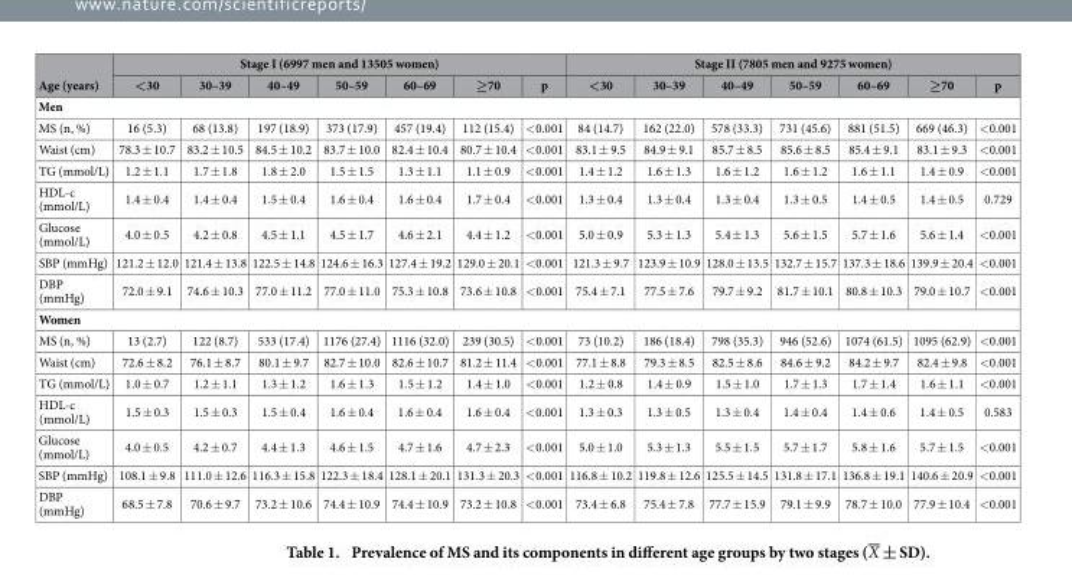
<table><thead><tr><td rowspan="2">Age (years)</td><td colspan="7">Stage I (6997 men and 13505 women)</td><td colspan="7">Stage II (7805 men and 9275 women)</td></tr><tr><td>&lt;30</td><td>30–39</td><td>40–49</td><td>50–59</td><td>60–69</td><td>≥70</td><td>p</td><td>&lt;30</td><td>30–39</td><td>40–49</td><td>50–59</td><td>60–69</td><td>≥70</td><td>p</td></tr></thead><tbody><tr><td colspan="15">Men</td></tr><tr><td>MS (n, %)</td><td>16 (5.3)</td><td>68 (13.8)</td><td>197 (18.9)</td><td>373 (17.9)</td><td>457 (19.4)</td><td>112 (15.4)</td><td>&lt; 0.001</td><td>84 (14.7)</td><td>162 (22.0)</td><td>578 (33.3)</td><td>731 (45.6)</td><td>881 (51.5)</td><td>669 (46.3)</td><td>&lt; 0.001</td></tr><tr><td>Waist (cm)</td><td>78.3 ± 10.7</td><td>83.2 ± 10.5</td><td>84.5 ± 10.2</td><td>83.7 ± 10.0</td><td>82.4 ± 10.4</td><td>80.7 ± 10.4</td><td>&lt; 0.001</td><td>83.1 ± 9.5</td><td>84.9 ± 9.1</td><td>85.7 ± 8.5</td><td>85.6 ± 8.5</td><td>85.4 ± 9.1</td><td>83.1 ± 9.3</td><td>&lt; 0.001</td></tr><tr><td>TG (mmol/L)</td><td>1.2 ± 1.1</td><td>1.7 ± 1.8</td><td>1.8 ± 2.0</td><td>1.5 ± 1.5</td><td>1.3 ± 1.1</td><td>1.1 ± 0.9</td><td>&lt; 0.001</td><td>1.4 ± 1.2</td><td>1.6 ± 1.3</td><td>1.6 ± 1.2</td><td>1.6 ± 1.2</td><td>1.6 ± 1.1</td><td>1.4 ± 0.9</td><td>&lt; 0.001</td></tr><tr><td>HDL-c (mmol/L)</td><td>1.4 ± 0.4</td><td>1.4 ± 0.4</td><td>1.5 ± 0.4</td><td>1.6 ± 0.4</td><td>1.6 ± 0.4</td><td>1.7 ± 0.4</td><td>&lt; 0.001</td><td>1.3 ± 0.4</td><td>1.3 ± 0.4</td><td>1.3 ± 0.4</td><td>1.3 ± 0.5</td><td>1.4 ± 0.5</td><td>1.4 ± 0.5</td><td>0.729</td></tr><tr><td>Glucose (mmol/L)</td><td>4.0 ± 0.5</td><td>4.2 ± 0.8</td><td>4.5 ± 1.1</td><td>4.5 ± 1.7</td><td>4.6 ± 2.1</td><td>4.4 ± 1.2</td><td>&lt; 0.001</td><td>5.0 ± 0.9</td><td>5.3 ± 1.3</td><td>5.4 ± 1.3</td><td>5.6 ± 1.5</td><td>5.7 ± 1.6</td><td>5.6 ± 1.4</td><td>&lt; 0.001</td></tr><tr><td>SBP (mmHg)</td><td>121.2 ± 12.0</td><td>121.4 ± 13.8</td><td>122.5 ± 14.8</td><td>124.6 ± 16.3</td><td>127.4 ± 19.2</td><td>129.0 ± 20.1</td><td>&lt; 0.001</td><td>121.3 ± 9.7</td><td>123.9 ± 10.9</td><td>128.0 ± 13.5</td><td>132.7 ± 15.7</td><td>137.3 ± 18.6</td><td>139.9 ± 20.4</td><td>&lt; 0.001</td></tr><tr><td>DBP (mmHg)</td><td>72.0 ± 9.1</td><td>74.6 ± 10.3</td><td>77.0 ± 11.2</td><td>77.0 ± 11.0</td><td>75.3 ± 10.8</td><td>73.6 ± 10.8</td><td>&lt; 0.001</td><td>75.4 ± 7.1</td><td>77.5 ± 7.6</td><td>79.7 ± 9.2</td><td>81.7 ± 10.1</td><td>80.8 ± 10.3</td><td>79.0 ± 10.7</td><td>&lt; 0.001</td></tr><tr><td colspan="15">Women</td></tr><tr><td>MS (n, %)</td><td>13 (2.7)</td><td>122 (8.7)</td><td>533 (17.4)</td><td>1176 (27.4)</td><td>1116 (32.0)</td><td>239 (30.5)</td><td>&lt; 0.001</td><td>73 (10.2)</td><td>186 (18.4)</td><td>798 (35.3)</td><td>946 (52.6)</td><td>1074 (61.5)</td><td>1095 (62.9)</td><td>&lt; 0.001</td></tr><tr><td>Waist (cm)</td><td>72.6 ± 8.2</td><td>76.1 ± 8.7</td><td>80.1 ± 9.7</td><td>82.7 ± 10.0</td><td>82.6 ± 10.7</td><td>81.2 ± 11.4</td><td>&lt; 0.001</td><td>77.1 ± 8.8</td><td>79.3 ± 8.5</td><td>82.5 ± 8.6</td><td>84.6 ± 9.2</td><td>84.2 ± 9.7</td><td>82.4 ± 9.8</td><td>&lt; 0.001</td></tr><tr><td>TG (mmol/L)</td><td>1.0 ± 0.7</td><td>1.2 ± 1.1</td><td>1.3 ± 1.2</td><td>1.6 ± 1.3</td><td>1.5 ± 1.2</td><td>1.4 ± 1.0</td><td>&lt; 0.001</td><td>1.2 ± 0.8</td><td>1.4 ± 0.9</td><td>1.5 ± 1.0</td><td>1.7 ± 1.3</td><td>1.7 ± 1.4</td><td>1.6 ± 1.1</td><td>&lt; 0.001</td></tr><tr><td>HDL-c (mmol/L)</td><td>1.5 ± 0.3</td><td>1.5 ± 0.3</td><td>1.5 ± 0.4</td><td>1.6 ± 0.4</td><td>1.6 ± 0.4</td><td>1.6 ± 0.4</td><td>&lt; 0.001</td><td>1.3 ± 0.3</td><td>1.3 ± 0.5</td><td>1.3 ± 0.4</td><td>1.4 ± 0.4</td><td>1.4 ± 0.6</td><td>1.4 ± 0.5</td><td>0.583</td></tr><tr><td>Glucose (mmol/L)</td><td>4.0 ± 0.5</td><td>4.2 ± 0.7</td><td>4.4 ± 1.3</td><td>4.6 ± 1.5</td><td>4.7 ± 1.6</td><td>4.7 ± 2.3</td><td>&lt; 0.001</td><td>5.0 ± 1.0</td><td>5.3 ± 1.3</td><td>5.5 ± 1.5</td><td>5.7 ± 1.7</td><td>5.8 ± 1.6</td><td>5.7 ± 1.5</td><td>&lt; 0.001</td></tr><tr><td>SBP (mmHg)</td><td>108.1 ± 9.8</td><td>111.0 ± 12.6</td><td>116.3 ± 15.8</td><td>122.3 ± 18.4</td><td>128.1 ± 20.1</td><td>131.3 ± 20.3</td><td>&lt; 0.001</td><td>116.8 ± 10.2</td><td>119.8 ± 12.6</td><td>125.5 ± 14.5</td><td>131.8 ± 17.1</td><td>136.8 ± 19.1</td><td>140.6 ± 20.9</td><td>&lt; 0.001</td></tr><tr><td>DBP (mmHg)</td><td>68.5 ± 7.8</td><td>70.6 ± 9.7</td><td>73.2 ± 10.6</td><td>74.4 ± 10.9</td><td>74.4 ± 10.9</td><td>73.2 ± 10.8</td><td>&lt; 0.001</td><td>73.4 ± 6.8</td><td>75.4 ± 7.8</td><td>77.7 ± 15.9</td><td>79.1 ± 9.9</td><td>78.7 ± 10.0</td><td>77.9 ± 10.4</td><td>&lt; 0.001</td></tr></tbody></table>